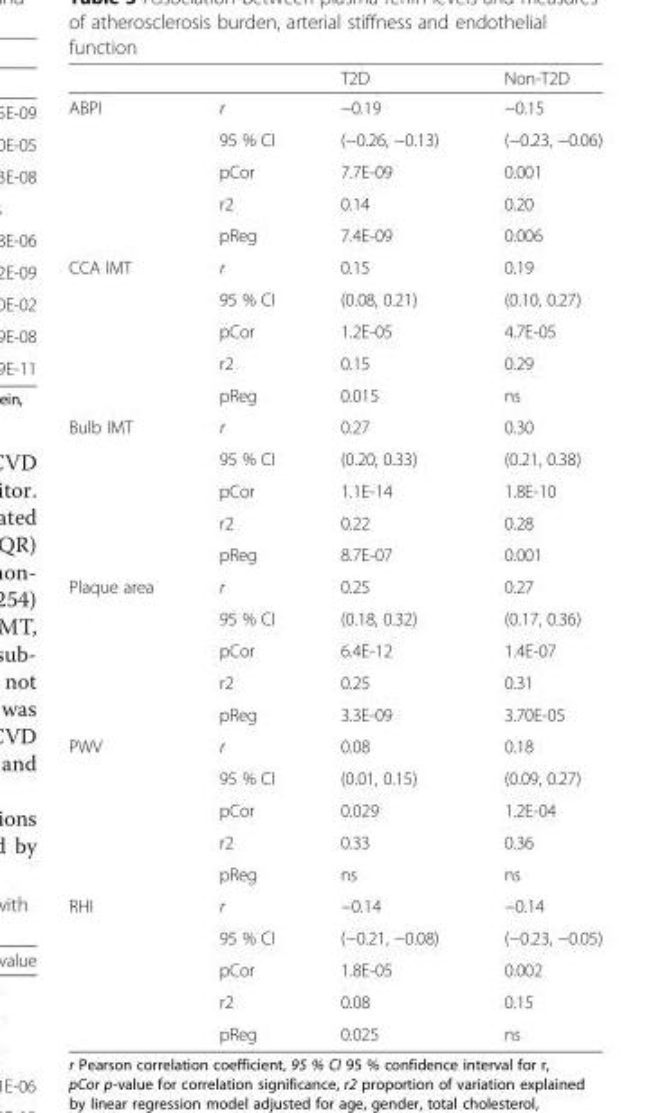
<table><thead><tr><td></td><td></td><td>T2D</td><td>Non-T2D</td></tr></thead><tbody><tr><td rowspan="5">ABPI</td><td>r</td><td>−0.19</td><td>−0.15</td></tr><tr><td>95 % CI</td><td>(−0.26, −0.13)</td><td>(−0.23, −0.06)</td></tr><tr><td>pCor</td><td>7.7E-09</td><td>0.001</td></tr><tr><td>r2</td><td>0.14</td><td>0.20</td></tr><tr><td>pReg</td><td>7.4E-09</td><td>0.006</td></tr><tr><td rowspan="5">CCA IMT</td><td>r</td><td>0.15</td><td>0.19</td></tr><tr><td>95 % CI</td><td>(0.08, 0.21)</td><td>(0.10, 0.27)</td></tr><tr><td>pCor</td><td>1.2E-05</td><td>4.7E-05</td></tr><tr><td>r2</td><td>0.15</td><td>0.29</td></tr><tr><td>pReg</td><td>0.015</td><td>ns</td></tr><tr><td rowspan="5">Bulb IMT</td><td>r</td><td>0.27</td><td>0.30</td></tr><tr><td>95 % CI</td><td>(0.20, 0.33)</td><td>(0.21, 0.38)</td></tr><tr><td>pCor</td><td>1.1E-14</td><td>1.8E-10</td></tr><tr><td>r2</td><td>0.22</td><td>0.28</td></tr><tr><td>pReg</td><td>8.7E-07</td><td>0.001</td></tr><tr><td rowspan="5">Plaque area</td><td>r</td><td>0.25</td><td>0.27</td></tr><tr><td>95 % CI</td><td>(0.18, 0.32)</td><td>(0.17, 0.36)</td></tr><tr><td>pCor</td><td>6.4E-12</td><td>1.4E-07</td></tr><tr><td>r2</td><td>0.25</td><td>0.31</td></tr><tr><td>pReg</td><td>3.3E-09</td><td>3.70E-05</td></tr><tr><td rowspan="5">PWV</td><td>r</td><td>0.08</td><td>0.18</td></tr><tr><td>95 % CI</td><td>(0.01, 0.15)</td><td>(0.09, 0.27)</td></tr><tr><td>pCor</td><td>0.029</td><td>1.2E-04</td></tr><tr><td>r2</td><td>0.33</td><td>0.36</td></tr><tr><td>pReg</td><td>ns</td><td>ns</td></tr><tr><td rowspan="5">RHI</td><td>r</td><td>−0.14</td><td>−0.14</td></tr><tr><td>95 % CI</td><td>(−0.21, −0.08)</td><td>(−0.23, −0.05)</td></tr><tr><td>pCor</td><td>1.8E-05</td><td>0.002</td></tr><tr><td>r2</td><td>0.08</td><td>0.15</td></tr><tr><td>pReg</td><td>0.025</td><td>ns</td></tr></tbody></table>